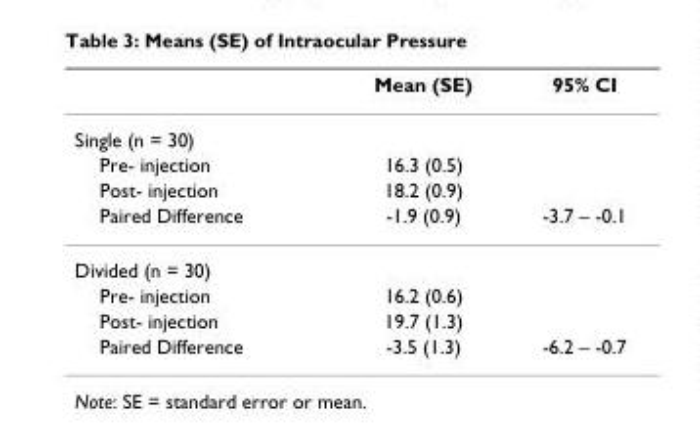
<table><thead><tr><td></td><td>Mean (SE)</td><td>95% CI</td></tr></thead><tbody><tr><td colspan="3">Single (n = 30)</td></tr><tr><td>Pre- injection</td><td>16.3 (0.5)</td><td></td></tr><tr><td>Post- injection</td><td>18.2 (0.9)</td><td></td></tr><tr><td>Paired Difference</td><td>-1.9 (0.9)</td><td>-3.7 – -0.1</td></tr><tr><td colspan="3">Divided (n = 30)</td></tr><tr><td>Pre- injection</td><td>16.2 (0.6)</td><td></td></tr><tr><td>Post- injection</td><td>19.7 (1.3)</td><td></td></tr><tr><td>Paired Difference</td><td>-3.5 (1.3)</td><td>-6.2 – -0.7</td></tr></tbody></table>